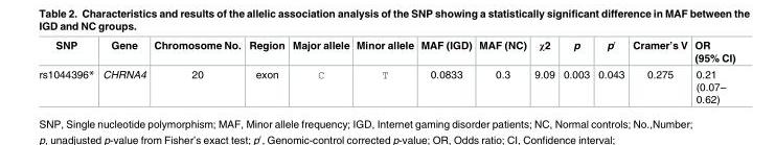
<table><thead><tr><td>SNP</td><td>Gene</td><td>Chromosome No.</td><td>Region</td><td>Major allele</td><td>Minor allele</td><td>MAF (IGD)</td><td>MAF (NC)</td><td>χ2</td><td>p</td><td>p′</td><td>Cramer’s V</td><td>OR (95% CI)</td></tr></thead><tbody><tr><td>rs1044396*</td><td>CHRNA4</td><td>20</td><td>exon</td><td>C</td><td>T</td><td>0.0833</td><td>0.3</td><td>9.09</td><td>0.003</td><td>0.043</td><td>0.275</td><td>0.21 (0.07– 0.62)</td></tr></tbody></table>